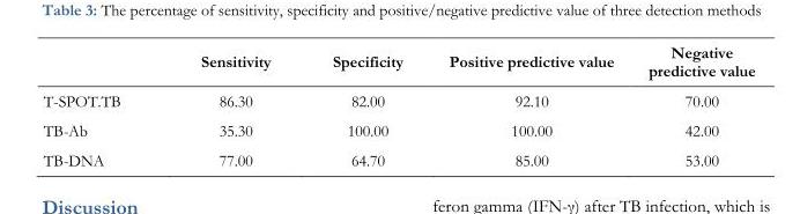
<table><thead><tr><td></td><td>Sensitivity</td><td>Specificity</td><td>Positive predictive value</td><td>Negative predictive value</td></tr></thead><tbody><tr><td>T-SPOT.TB</td><td>86.30</td><td>82.00</td><td>92.10</td><td>70.00</td></tr><tr><td>TB-Ab</td><td>35.30</td><td>100.00</td><td>100.00</td><td>42.00</td></tr><tr><td>TB-DNA</td><td>77.00</td><td>64.70</td><td>85.00</td><td>53.00</td></tr></tbody></table>